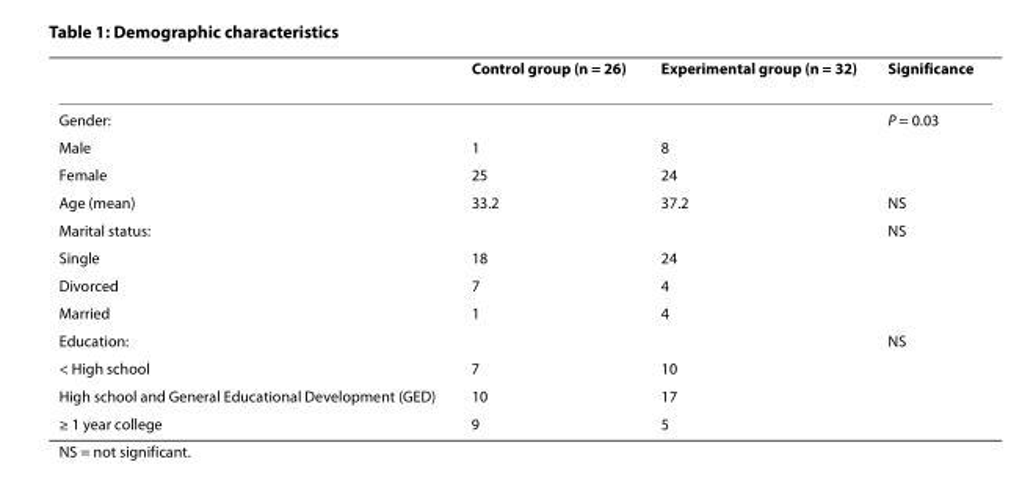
<table><thead><tr><td></td><td>Control group (n = 26)</td><td>Experimental group (n = 32)</td><td>Significance</td></tr></thead><tbody><tr><td>Gender:</td><td></td><td></td><td>P = 0.03</td></tr><tr><td>Male</td><td>1</td><td>8</td><td></td></tr><tr><td>Female</td><td>25</td><td>24</td><td></td></tr><tr><td>Age (mean)</td><td>33.2</td><td>37.2</td><td>NS</td></tr><tr><td>Marital status:</td><td></td><td></td><td>NS</td></tr><tr><td>Single</td><td>18</td><td>24</td><td></td></tr><tr><td>Divorced</td><td>7</td><td>4</td><td></td></tr><tr><td>Married</td><td>1</td><td>4</td><td></td></tr><tr><td>Education:</td><td></td><td></td><td>NS</td></tr><tr><td>&lt; High school</td><td>7</td><td>10</td><td></td></tr><tr><td>High school and General Educational Development (GED)</td><td>10</td><td>17</td><td></td></tr><tr><td>≥ 1 year college</td><td>9</td><td>5</td><td></td></tr></tbody></table>